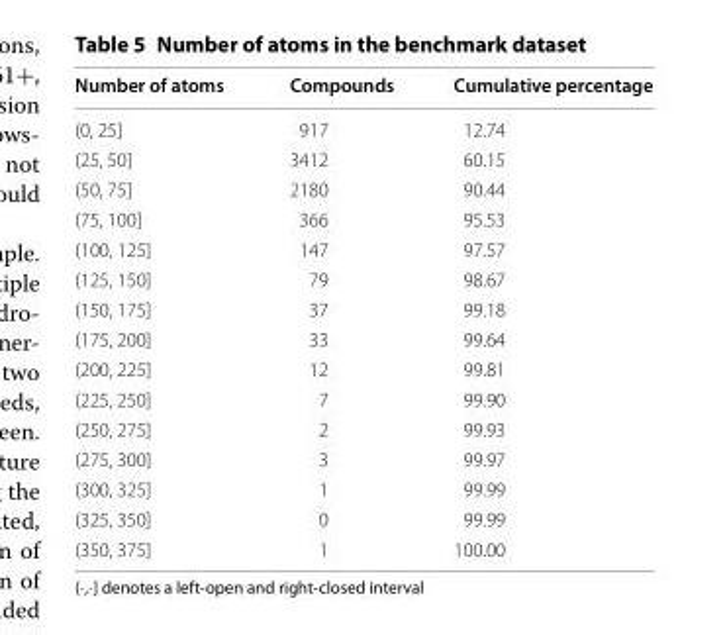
<table><thead><tr><td>Number of atoms</td><td>Compounds</td><td>Cumulative percentage</td></tr></thead><tbody><tr><td>(0, 25]</td><td>917</td><td>12.74</td></tr><tr><td>(25, 50]</td><td>3412</td><td>60.15</td></tr><tr><td>(50, 75]</td><td>2180</td><td>90.44</td></tr><tr><td>(75, 100]</td><td>366</td><td>95.53</td></tr><tr><td>(100, 125]</td><td>147</td><td>97.57</td></tr><tr><td>(125, 150]</td><td>79</td><td>98.67</td></tr><tr><td>(150, 175]</td><td>37</td><td>99.18</td></tr><tr><td>(175, 200]</td><td>33</td><td>99.64</td></tr><tr><td>(200, 225]</td><td>12</td><td>99.81</td></tr><tr><td>(225, 250]</td><td>7</td><td>99.90</td></tr><tr><td>(250, 275]</td><td>2</td><td>99.93</td></tr><tr><td>(275, 300]</td><td>3</td><td>99.97</td></tr><tr><td>(300, 325]</td><td>1</td><td>99.99</td></tr><tr><td>(325, 350]</td><td>0</td><td>99.99</td></tr><tr><td>(350, 375]</td><td>1</td><td>100.00</td></tr></tbody></table>